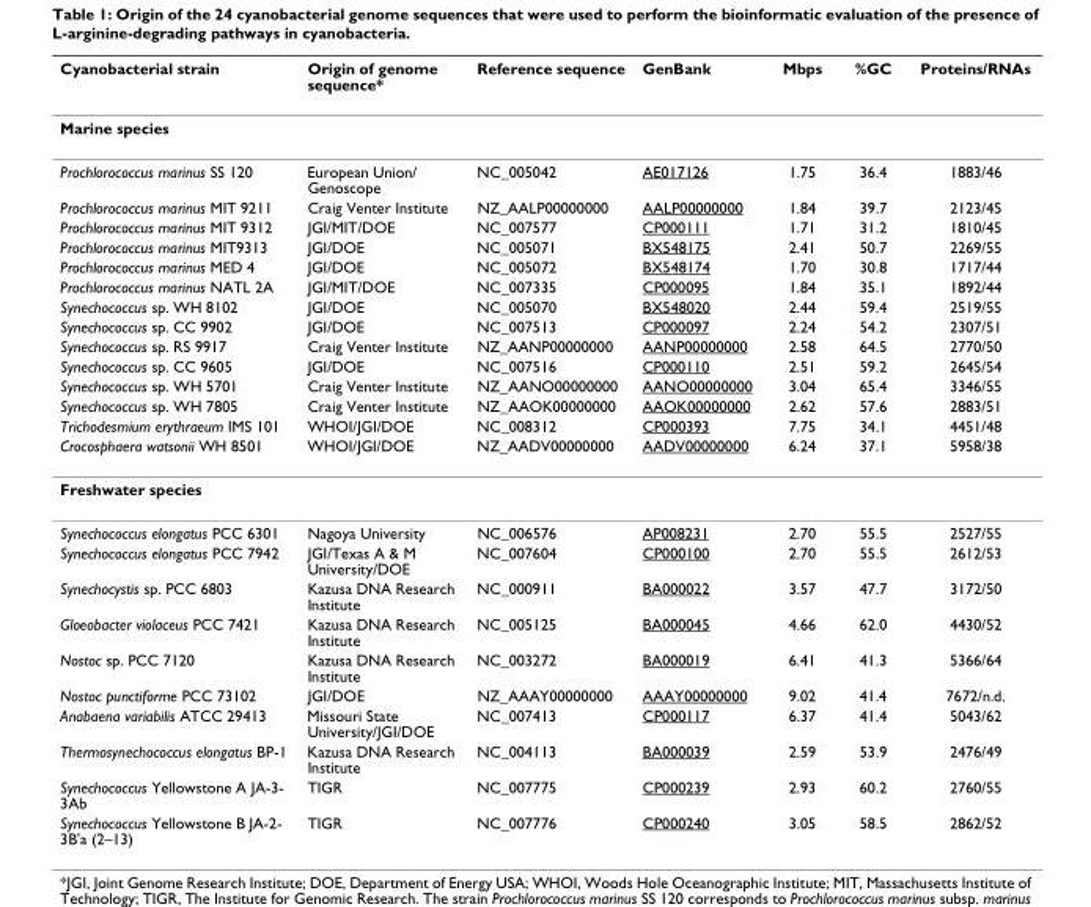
<table><thead><tr><td>Cyanobacterial strain</td><td>Origin of genome sequence*</td><td>Reference sequence</td><td>GenBank</td><td>Mbps</td><td>%GC</td><td>Proteins/RNAs</td></tr></thead><tbody><tr><td colspan="7">Marine species</td></tr><tr><td>Prochlorococcus marinus SS 120</td><td>European Union/ Genoscope</td><td>NC_005042</td><td>AE017126</td><td>1.75</td><td>36.4</td><td>1883/46</td></tr><tr><td>Prochlorococcus marinus MIT 9211</td><td>Craig Venter Institute</td><td>NZ_AALP00000000</td><td>AALP00000000</td><td>1.84</td><td>39.7</td><td>2123/45</td></tr><tr><td>Prochlorococcus marinus MIT 9312</td><td>JGI/MIT/DOE</td><td>NC_007577</td><td>CP000111</td><td>1.71</td><td>31.2</td><td>1810/45</td></tr><tr><td>Prochlorococcus marinus MIT9313</td><td>JGI/DOE</td><td>NC_005071</td><td>BX548175</td><td>2.41</td><td>50.7</td><td>2269/55</td></tr><tr><td>Prochlorococcus marinus MED 4</td><td>JGI/DOE</td><td>NC_005072</td><td>BX548174</td><td>1.70</td><td>30.8</td><td>1717/44</td></tr><tr><td>Prochlorococcus marinus NATL 2A</td><td>JGI/MIT/DOE</td><td>NC_007335</td><td>CP000095</td><td>1.84</td><td>35.1</td><td>1892/44</td></tr><tr><td>Synechococcus sp. WH 8102</td><td>JGI/DOE</td><td>NC_005070</td><td>BX548020</td><td>2.44</td><td>59.4</td><td>2519/55</td></tr><tr><td>Synechococcus sp. CC 9902</td><td>JGI/DOE</td><td>NC_007513</td><td>CP000097</td><td>2.24</td><td>54.2</td><td>2307/51</td></tr><tr><td>Synechococcus sp. RS 9917</td><td>Craig Venter Institute</td><td>NZ_AANP00000000</td><td>AANP00000000</td><td>2.58</td><td>64.5</td><td>2770/50</td></tr><tr><td>Synechococcus sp. CC 9605</td><td>JGI/DOE</td><td>NC_007516</td><td>CP000110</td><td>2.51</td><td>59.2</td><td>2645/54</td></tr><tr><td>Synechococcus sp. WH 5701</td><td>Craig Venter Institute</td><td>NZ_AANO00000000</td><td>AANO00000000</td><td>3.04</td><td>65.4</td><td>3346/55</td></tr><tr><td>Synechococcus sp. WH 7805</td><td>Craig Venter Institute</td><td>NZ_AAOK00000000</td><td>AAOK00000000</td><td>2.62</td><td>57.6</td><td>2883/51</td></tr><tr><td>Trichodesmium erythraeum IMS 101</td><td>WHOI/JGI/DOE</td><td>NC_008312</td><td>CP000393</td><td>7.75</td><td>34.1</td><td>4451/48</td></tr><tr><td>Crocosphaera watsonii WH 8501</td><td>WHOI/JGI/DOE</td><td>NZ_AADV00000000</td><td>AADV00000000</td><td>6.24</td><td>37.1</td><td>5958/38</td></tr><tr><td colspan="7">Freshwater species</td></tr><tr><td>Synechococcus elongatus PCC 6301</td><td>Nagoya University</td><td>NC_006576</td><td>AP008231</td><td>2.70</td><td>55.5</td><td>2527/55</td></tr><tr><td>Synechococcus elongatus PCC 7942</td><td>JGI/Texas A &amp; M University/DOE</td><td>NC_007604</td><td>CP000100</td><td>2.70</td><td>55.5</td><td>2612/53</td></tr><tr><td>Synechocystis sp. PCC 6803</td><td>Kazusa DNA Research Institute</td><td>NC_000911</td><td>BA000022</td><td>3.57</td><td>47.7</td><td>3172/50</td></tr><tr><td>Gloeobacter violaceus PCC 7421</td><td>Kazusa DNA Research Institute</td><td>NC_005125</td><td>BA000045</td><td>4.66</td><td>62.0</td><td>4430/52</td></tr><tr><td>Nostoc sp. PCC 7120</td><td>Kazusa DNA Research Institute</td><td>NC_003272</td><td>BA000019</td><td>6.41</td><td>41.3</td><td>5366/64</td></tr><tr><td>Nostoc punctiforme PCC 73102</td><td>JGI/DOE</td><td>NZ_AAAY00000000</td><td>AAAY00000000</td><td>9.02</td><td>41.4</td><td>7672/n.d.</td></tr><tr><td>Anabaena variabilis ATCC 29413</td><td>Missouri State University/JGI/DOE</td><td>NC_007413</td><td>CP000117</td><td>6.37</td><td>41.4</td><td>5043/62</td></tr><tr><td>Thermosynechococcus elongatus BP-1</td><td>Kazusa DNA Research Institute</td><td>NC_004113</td><td>BA000039</td><td>2.59</td><td>53.9</td><td>2476/49</td></tr><tr><td>Synechococcus Yellowstone A JA-3- 3Ab</td><td>TIGR</td><td>NC_007775</td><td>CP000239</td><td>2.93</td><td>60.2</td><td>2760/55</td></tr><tr><td>Synechococcus Yellowstone B JA-2- 3B&#x27;a (2–13)</td><td>TIGR</td><td>NC_007776</td><td>CP000240</td><td>3.05</td><td>58.5</td><td>2862/52</td></tr></tbody></table>